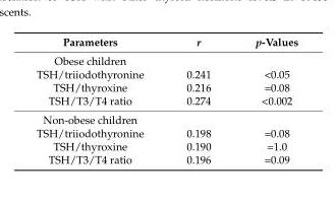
<table><thead><tr><td>Parameters</td><td>r</td><td>p-Values</td></tr></thead><tbody><tr><td colspan="3">Obese children</td></tr><tr><td>TSH/triiodothyronine</td><td>0.241</td><td>&lt;0.05</td></tr><tr><td>TSH/thyroxine</td><td>0.216</td><td>=0.08</td></tr><tr><td>TSH/T3/T4 ratio</td><td>0.274</td><td>&lt;0.002</td></tr><tr><td colspan="3">Non-obese children</td></tr><tr><td>TSH/triiodothyronine</td><td>0.198</td><td>=0.08</td></tr><tr><td>TSH/thyroxine</td><td>0.190</td><td>=1.0</td></tr><tr><td>TSH/T3/T4 ratio</td><td>0.196</td><td>=0.09</td></tr></tbody></table>